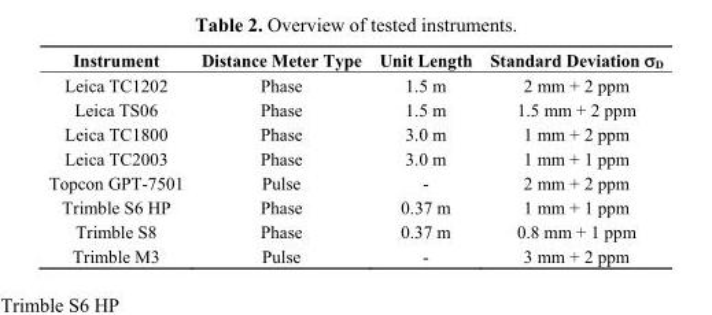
<table><thead><tr><td>Instrument</td><td>Distance Meter Type</td><td>Unit Length</td><td>Standard Deviation σ<sub>D</sub></td></tr></thead><tbody><tr><td>Leica TC1202</td><td>Phase</td><td>1.5 m</td><td>2 mm + 2 ppm</td></tr><tr><td>Leica TS06</td><td>Phase</td><td>1.5 m</td><td>1.5 mm + 2 ppm</td></tr><tr><td>Leica TC1800</td><td>Phase</td><td>3.0 m</td><td>1 mm + 2 ppm</td></tr><tr><td>Leica TC2003</td><td>Phase</td><td>3.0 m</td><td>1 mm + 1 ppm</td></tr><tr><td>Topcon GPT-7501</td><td>Pulse</td><td>-</td><td>2 mm + 2 ppm</td></tr><tr><td>Trimble S6 HP</td><td>Phase</td><td>0.37 m</td><td>1 mm + 1 ppm</td></tr><tr><td>Trimble S8</td><td>Phase</td><td>0.37 m</td><td>0.8 mm + 1 ppm</td></tr><tr><td>Trimble M3</td><td>Pulse</td><td>-</td><td>3 mm + 2 ppm</td></tr></tbody></table>